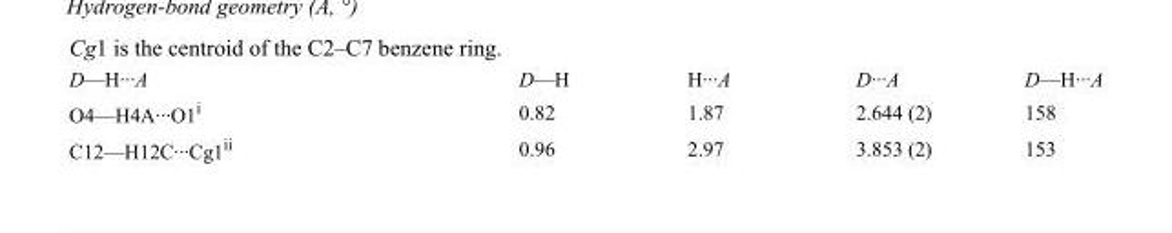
<table><tbody><tr><td>D—H···A</td><td>D—H</td><td>H···A</td><td>D···A</td><td>D—H···A</td></tr><tr><td>O4—H4A···O1<sup>i</sup></td><td>0.82</td><td>1.87</td><td>2.644 (2)</td><td>158</td></tr><tr><td>C12—H12C···Cg1<sup>ii</sup></td><td>0.96</td><td>2.97</td><td>3.853 (2)</td><td>153</td></tr></tbody></table>